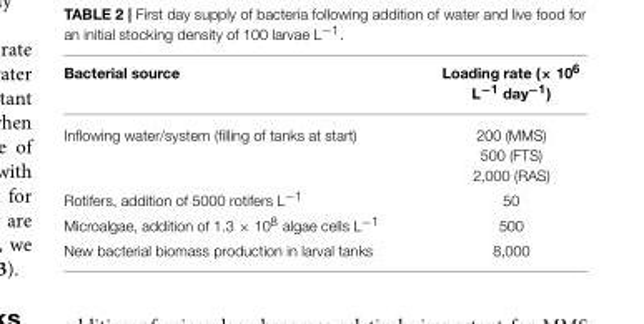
<table><thead><tr><td>Bacterial source</td><td>Loading rate (× 10<sup>6</sup> L<sup>−1</sup> day<sup>−1</sup>)</td></tr></thead><tbody><tr><td>Inflowing water/system (filling of tanks at start)</td><td>200 (MMS) 500 (FTS) 2,000 (RAS)</td></tr><tr><td>Rotifers, addition of 5000 rotifers L<sup>−1</sup></td><td>50</td></tr><tr><td>Microalgae, addition of 1.3 × 10<sup>8</sup> algae cells L<sup>−1</sup></td><td>500</td></tr><tr><td>New bacterial biomass production in larval tanks</td><td>8,000</td></tr></tbody></table>